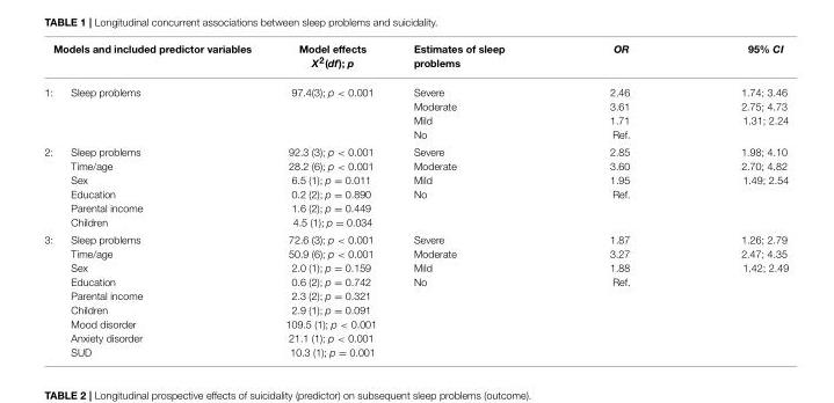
<table><thead><tr><td colspan="2">Models and included predictor variables</td><td rowspan="2">Model effects X<sup>2</sup>(df); p 97.4(3); p &lt; 0.001</td><td rowspan="2">Estimates of sleep problems Severe Moderate Mild No</td><td rowspan="2">OR 2.46 3.61 1.71 Ref.</td><td rowspan="2">95% CI 1.74; 3.46 2.75; 4.73 1.31; 2.24</td></tr><tr><td>1:</td><td>Sleep problems</td></tr></thead><tbody><tr><td>2:</td><td>Sleep problems Time/age Sex Education Parental income Children</td><td>92.3 (3); p &lt; 0.001 28.2 (6); p &lt; 0.001 6.5 (1); p = 0.011 0.2 (2); p = 0.890 1.6 (2); p = 0.449 4.5 (1); p = 0.034</td><td>Severe Moderate Mild No</td><td>2.85 3.60 1.95 Ref.</td><td>1.98; 4.10 2.70; 4.82 1.49; 2.54</td></tr><tr><td>3:</td><td>Sleep problems Time/age Sex Education Parental income Children Mood disorder Anxiety disorder SUD</td><td>72.6 (3); p &lt; 0.001 50.9 (6); p &lt; 0.001 2.0 (1); p = 0.159 0.6 (2); p = 0.742 2.3 (2); p = 0.321 2.9 (1); p = 0.091 109.5 (1); p &lt; 0.001 21.1 (1); p &lt; 0.001 10.3 (1); p = 0.001</td><td>Severe Moderate Mild No</td><td>1.87 3.27 1.88 Ref.</td><td>1.26; 2.79 2.47; 4.35 1.42; 2.49</td></tr></tbody></table>